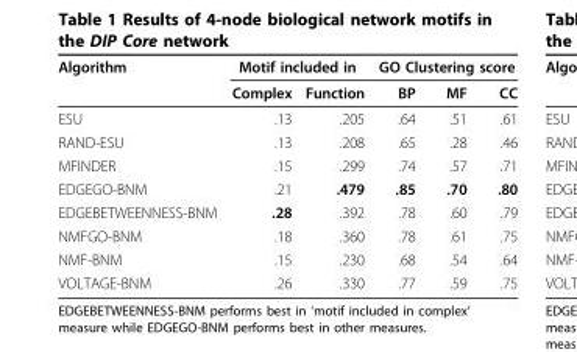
<table><thead><tr><td rowspan="2">Algorithm</td><td colspan="2">Motif included in</td><td colspan="3">GO Clustering score</td></tr><tr><td>Complex</td><td>Function</td><td>BP</td><td>MF</td><td>CC</td></tr></thead><tbody><tr><td>ESU</td><td>.13</td><td>.205</td><td>.64</td><td>.51</td><td>.61</td></tr><tr><td>RAND-ESU</td><td>.13</td><td>.208</td><td>.65</td><td>.28</td><td>.46</td></tr><tr><td>MFINDER</td><td>.15</td><td>.299</td><td>.74</td><td>.57</td><td>.71</td></tr><tr><td>EDGEGO-BNM</td><td>.21</td><td>.479</td><td>.85</td><td>.70</td><td>.80</td></tr><tr><td>EDGEBETWEENNESS-BNM</td><td>.28</td><td>.392</td><td>.78</td><td>.60</td><td>.79</td></tr><tr><td>NMFGO-BNM</td><td>.18</td><td>.360</td><td>.78</td><td>.61</td><td>.75</td></tr><tr><td>NMF-BNM</td><td>.15</td><td>.230</td><td>.68</td><td>.54</td><td>.64</td></tr><tr><td>VOLTAGE-BNM</td><td>.26</td><td>.330</td><td>.77</td><td>.59</td><td>.75</td></tr></tbody></table>